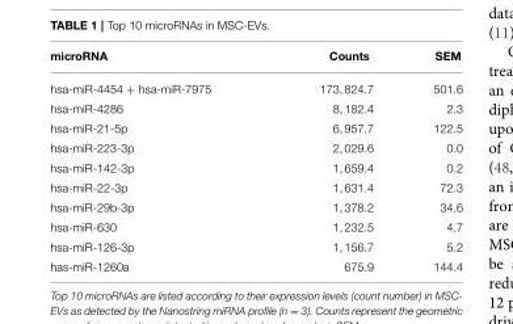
<table><thead><tr><td>microRNA</td><td>Counts</td><td>SEM</td></tr></thead><tbody><tr><td>hsa-miR-4454 + hsa-miR-7975</td><td>173, 824.7</td><td>501.6</td></tr><tr><td>hsa-miR-4286</td><td>8, 182.4</td><td>2.3</td></tr><tr><td>hsa-miR-21-5p</td><td>6, 957.7</td><td>122.5</td></tr><tr><td>hsa-miR-223-3p</td><td>2, 029.6</td><td>0.0</td></tr><tr><td>hsa-miR-142-3p</td><td>1, 659.4</td><td>0.2</td></tr><tr><td>hsa-miR-22-3p</td><td>1, 631.4</td><td>72.3</td></tr><tr><td>hsa-miR-29b-3p</td><td>1, 378.2</td><td>34.6</td></tr><tr><td>hsa-miR-630</td><td>1, 232.5</td><td>4.7</td></tr><tr><td>hsa-miR-126-3p</td><td>1, 156.7</td><td>5.2</td></tr><tr><td>has-miR-1260a</td><td>675.9</td><td>144.4</td></tr></tbody></table>